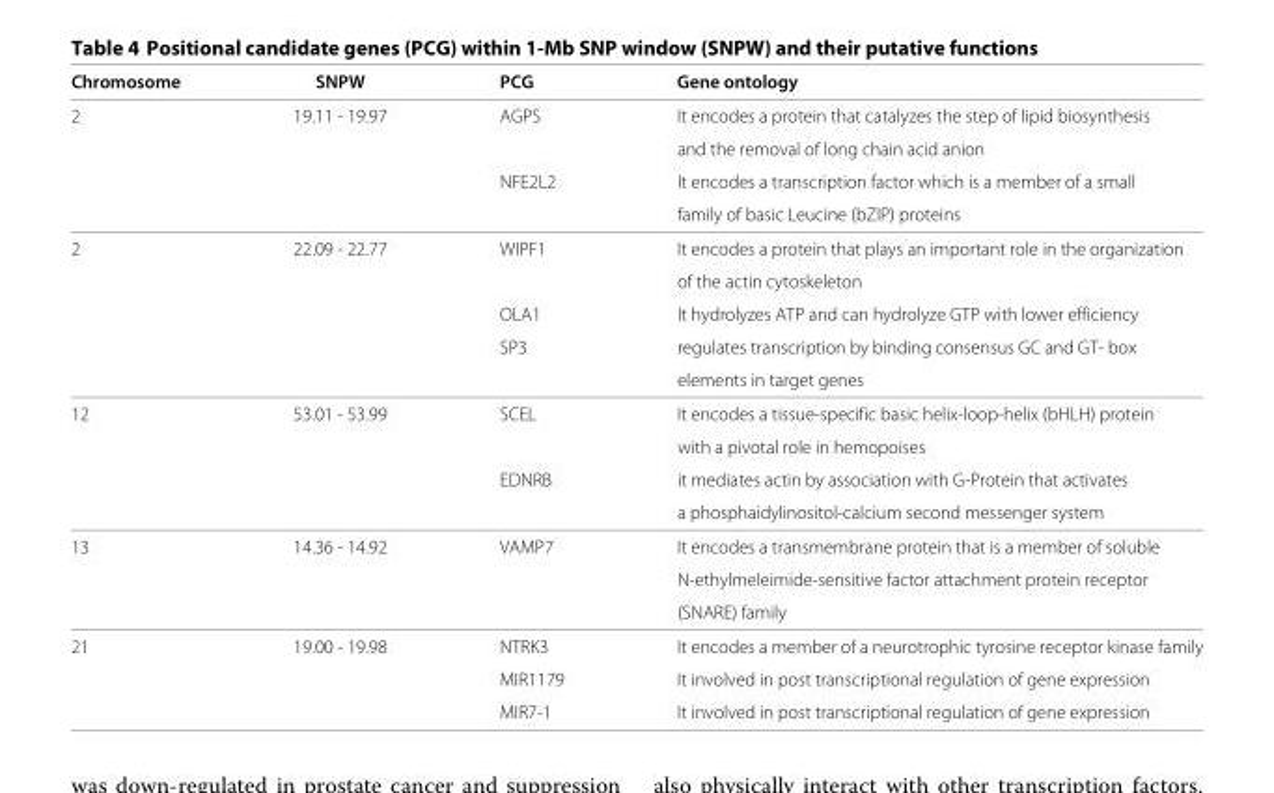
<table><thead><tr><td>Chromosome</td><td>SNPW</td><td>PCG</td><td>Gene ontology</td></tr></thead><tbody><tr><td rowspan="4">2</td><td>19.11 - 19.97</td><td>AGPS</td><td>It encodes a protein that catalyzes the step of lipid biosynthesis</td></tr><tr><td></td><td></td><td>and the removal of long chain acid anion</td></tr><tr><td></td><td>NFE2L2</td><td>It encodes a transcription factor which is a member of a small</td></tr><tr><td></td><td></td><td>family of basic Leucine (bZIP) proteins</td></tr><tr><td rowspan="5">2</td><td>22.09 - 22.77</td><td>WIPF1</td><td>It encodes a protein that plays an important role in the organization</td></tr><tr><td></td><td></td><td>of the actin cytoskeleton</td></tr><tr><td></td><td>OLA1</td><td>It hydrolyzes ATP and can hydrolyze GTP with lower efficiency</td></tr><tr><td></td><td>SP3</td><td>regulates transcription by binding consensus GC and GT- box</td></tr><tr><td></td><td></td><td>elements in target genes</td></tr><tr><td rowspan="4">12</td><td>53.01 - 53.99</td><td>SCEL</td><td>It encodes a tissue-specific basic helix-loop-helix (bHLH) protein</td></tr><tr><td></td><td></td><td>with a pivotal role in hemopoises</td></tr><tr><td></td><td>EDNRB</td><td>it mediates actin by association with G-Protein that activates</td></tr><tr><td></td><td></td><td>a phosphaidylinositol-calcium second messenger system</td></tr><tr><td rowspan="3">13</td><td>14.36 - 14.92</td><td>VAMP7</td><td>It encodes a transmembrane protein that is a member of soluble</td></tr><tr><td></td><td></td><td>N-ethylmeleimide-sensitive factor attachment protein receptor</td></tr><tr><td></td><td></td><td>(SNARE) family</td></tr><tr><td rowspan="3">21</td><td>19.00 - 19.98</td><td>NTRK3</td><td>It encodes a member of a neurotrophic tyrosine receptor kinase family</td></tr><tr><td></td><td>MIR1179</td><td>It involved in post transcriptional regulation of gene expression</td></tr><tr><td></td><td>MIR7-1</td><td>It involved in post transcriptional regulation of gene expression</td></tr></tbody></table>